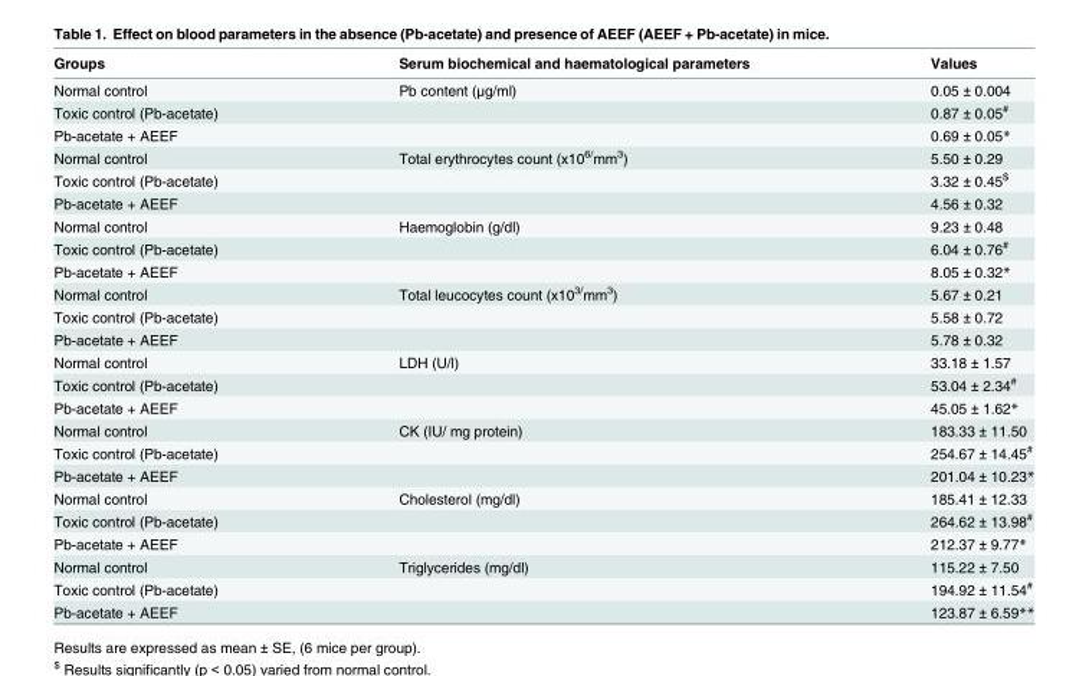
<table><thead><tr><td>Groups</td><td>Serum biochemical and haematological parameters</td><td>Values</td></tr></thead><tbody><tr><td>Normal control</td><td>Pb content (μg/ml)</td><td>0.05 ± 0.004</td></tr><tr><td>Toxic control (Pb-acetate)</td><td></td><td>0.87 ± 0.05<sup>#</sup></td></tr><tr><td>Pb-acetate + AEEF</td><td></td><td>0.69 ± 0.05*</td></tr><tr><td>Normal control</td><td>Total erythrocytes count (x10<sup>6/</sup>mm<sup>3</sup>)</td><td>5.50 ± 0.29</td></tr><tr><td>Toxic control (Pb-acetate)</td><td></td><td>3.32 ± 0.45<sup>$</sup></td></tr><tr><td>Pb-acetate + AEEF</td><td></td><td>4.56 ± 0.32</td></tr><tr><td>Normal control</td><td>Haemoglobin (g/dl)</td><td>9.23 ± 0.48</td></tr><tr><td>Toxic control (Pb-acetate)</td><td></td><td>6.04 ± 0.76<sup>#</sup></td></tr><tr><td>Pb-acetate + AEEF</td><td></td><td>8.05 ± 0.32*</td></tr><tr><td>Normal control</td><td>Total leucocytes count (x10<sup>3/</sup>mm<sup>3</sup>)</td><td>5.67 ± 0.21</td></tr><tr><td>Toxic control (Pb-acetate)</td><td></td><td>5.58 ± 0.72</td></tr><tr><td>Pb-acetate + AEEF</td><td></td><td>5.78 ± 0.32</td></tr><tr><td>Normal control</td><td>LDH (U/l)</td><td>33.18 ± 1.57</td></tr><tr><td>Toxic control (Pb-acetate)</td><td></td><td>53.04 ± 2.34<sup>#</sup></td></tr><tr><td>Pb-acetate + AEEF</td><td></td><td>45.05 ± 1.62*</td></tr><tr><td>Normal control</td><td>CK (IU/ mg protein)</td><td>183.33 ± 11.50</td></tr><tr><td>Toxic control (Pb-acetate)</td><td></td><td>254.67 ± 14.45<sup>#</sup></td></tr><tr><td>Pb-acetate + AEEF</td><td></td><td>201.04 ± 10.23*</td></tr><tr><td>Normal control</td><td>Cholesterol (mg/dl)</td><td>185.41 ± 12.33</td></tr><tr><td>Toxic control (Pb-acetate)</td><td></td><td>264.62 ± 13.98<sup>#</sup></td></tr><tr><td>Pb-acetate + AEEF</td><td></td><td>212.37 ± 9.77*</td></tr><tr><td>Normal control</td><td>Triglycerides (mg/dl)</td><td>115.22 ± 7.50</td></tr><tr><td>Toxic control (Pb-acetate)</td><td></td><td>194.92 ± 11.54<sup>#</sup></td></tr><tr><td>Pb-acetate + AEEF</td><td></td><td>123.87 ± 6.59**</td></tr></tbody></table>